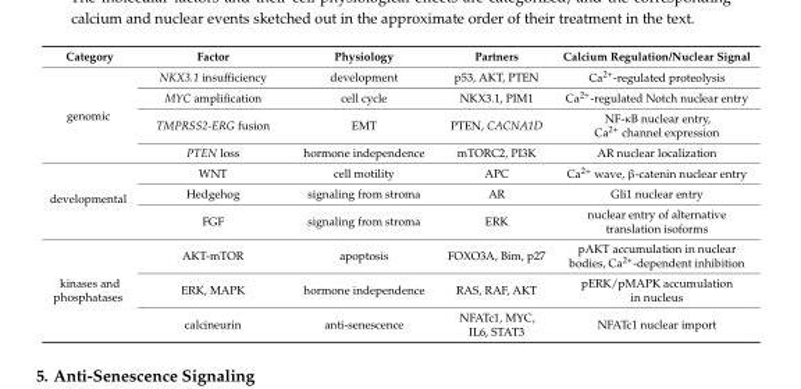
<table><thead><tr><td>Category</td><td>Factor</td><td>Physiology</td><td>Partners</td><td>Calcium Regulation/Nuclear Signal</td></tr></thead><tbody><tr><td rowspan="4">genomic</td><td>NKX3.1 insufficiency</td><td>development</td><td>p53, AKT, PTEN</td><td>Ca<sup>2+</sup>-regulated proteolysis</td></tr><tr><td>MYC amplification</td><td>cell cycle</td><td>NKX3.1, PIM1</td><td>Ca<sup>2+</sup>-regulated Notch nuclear entry</td></tr><tr><td>TMPRSS2-ERG fusion</td><td>EMT</td><td>PTEN, CACNA1D</td><td>NF-κB nuclear entry, Ca<sup>2+</sup> channel expression</td></tr><tr><td>PTEN loss</td><td>hormone independence</td><td>mTORC2, PI3K</td><td>AR nuclear localization</td></tr><tr><td rowspan="3">developmental</td><td>WNT</td><td>cell motility</td><td>APC</td><td>Ca<sup>2+</sup> wave, β-catenin nuclear entry</td></tr><tr><td>Hedgehog</td><td>signaling from stroma</td><td>AR</td><td>Gli1 nuclear entry</td></tr><tr><td>FGF</td><td>signaling from stroma</td><td>ERK</td><td>nuclear entry of alternative translation isoforms</td></tr><tr><td rowspan="3">kinases and phosphatases</td><td>AKT-mTOR</td><td>apoptosis</td><td>FOXO3A, Bim, p27</td><td>pAKT accumulation in nuclear bodies, Ca<sup>2+</sup>-dependent inhibition</td></tr><tr><td>ERK, MAPK</td><td>hormone independence</td><td>RAS, RAF, AKT</td><td>pERK/pMAPK accumulation in nucleus</td></tr><tr><td>calcineurin</td><td>anti-senescence</td><td>NFATc1, MYC, IL6, STAT3</td><td>NFATc1 nuclear import</td></tr></tbody></table>